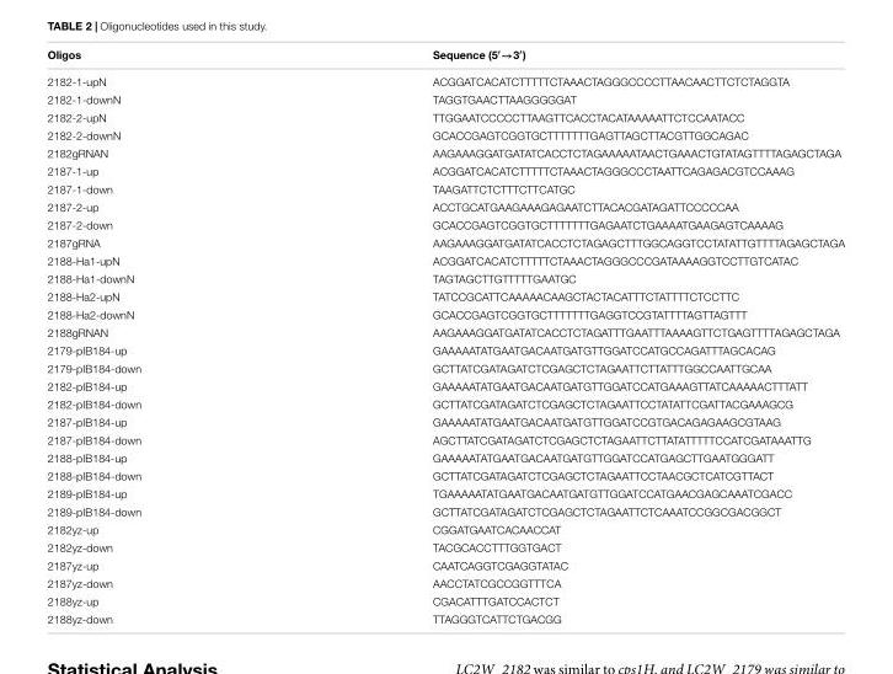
<table><thead><tr><td>Oligos</td><td>Sequence (5′→3′)</td></tr></thead><tbody><tr><td>2182-1-upN</td><td>ACGGATCACATCTTTTTCTAAACTAGGGCCCCTTAACAACTTCTCTAGGTA</td></tr><tr><td>2182-1-downN</td><td>TAGGTGAACTTAAGGGGGAT</td></tr><tr><td>2182-2-upN</td><td>TTGGAATCCCCCTTAAGTTCACCTACATAAAAATTCTCCAATACC</td></tr><tr><td>2182-2-downN</td><td>GCACCGAGTCGGTGCTTTTTTTGAGTTAGCTTACGTTGGCAGAC</td></tr><tr><td>2182gRNAN</td><td>AAGAAAGGATGATATCACCTCTAGAAAAATAACTGAAACTGTATAGTTTTAGAGCTAGA</td></tr><tr><td>2187-1-up</td><td>ACGGATCACATCTTTTTCTAAACTAGGGCCCTAATTCAGAGACGTCCAAAG</td></tr><tr><td>2187-1-down</td><td>TAAGATTCTCTTTCTTCATGC</td></tr><tr><td>2187-2-up</td><td>ACCTGCATGAAGAAAGAGAATCTTACACGATAGATTCCCCCAA</td></tr><tr><td>2187-2-down</td><td>GCACCGAGTCGGTGCTTTTTTTGAGAATCTGAAAATGAAGAGTCAAAAG</td></tr><tr><td>2187gRNA</td><td>AAGAAAGGATGATATCACCTCTAGAGCTTTGGCAGGTCCTATATTGTTTTAGAGCTAGA</td></tr><tr><td>2188-Ha1-upN</td><td>ACGGATCACATCTTTTTCTAAACTAGGGCCCGATAAAAGGTCCTTGTCATAC</td></tr><tr><td>2188-Ha1-downN</td><td>TAGTAGCTTGTTTTTGAATGC</td></tr><tr><td>2188-Ha2-upN</td><td>TATCCGCATTCAAAAACAAGCTACTACATTTCTATTTTCTCCTTC</td></tr><tr><td>2188-Ha2-downN</td><td>GCACCGAGTCGGTGCTTTTTTTGAGGTCCGTATTTTAGTTAGTTT</td></tr><tr><td>2188gRNAN</td><td>AAGAAAGGATGATATCACCTCTAGATTTGAATTTAAAAGTTCTGAGTTTTAGAGCTAGA</td></tr><tr><td>2179-pIB184-up</td><td>GAAAAATATGAATGACAATGATGTTGGATCCATGCCAGATTTAGCACAG</td></tr><tr><td>2179-pIB184-down</td><td>GCTTATCGATAGATCTCGAGCTCTAGAATTCTTATTTGGCCAATTGCAA</td></tr><tr><td>2182-pIB184-up</td><td>GAAAAATATGAATGACAATGATGTTGGATCCATGAAAGTTATCAAAAACTTTATT</td></tr><tr><td>2182-pIB184-down</td><td>GCTTATCGATAGATCTCGAGCTCTAGAATTCCTATATTCGATTACGAAAGCG</td></tr><tr><td>2187-pIB184-up</td><td>GAAAAATATGAATGACAATGATGTTGGATCCGTGACAGAGAAGCGTAAG</td></tr><tr><td>2187-pIB184-down</td><td>AGCTTATCGATAGATCTCGAGCTCTAGAATTCTTATATTTTTCCATCGATAAATTG</td></tr><tr><td>2188-pIB184-up</td><td>GAAAAATATGAATGACAATGATGTTGGATCCATGAGCTTGAATGGGATT</td></tr><tr><td>2188-pIB184-down</td><td>GCTTATCGATAGATCTCGAGCTCTAGAATTCCTAACGCTCATCGTTACT</td></tr><tr><td>2189-pIB184-up</td><td>TGAAAAATATGAATGACAATGATGTTGGATCCATGAACGAGCAAATCGACC</td></tr><tr><td>2189-pIB184-down</td><td>GCTTATCGATAGATCTCGAGCTCTAGAATTCTCAAATCCGGCGACGGCT</td></tr><tr><td>2182yz-up</td><td>CGGATGAATCACAACCAT</td></tr><tr><td>2182yz-down</td><td>TACGCACCTTTGGTGACT</td></tr><tr><td>2187yz-up</td><td>CAATCAGGTCGAGGTATAC</td></tr><tr><td>2187yz-down</td><td>AACCTATCGCCGGTTTCA</td></tr><tr><td>2188yz-up</td><td>CGACATTTGATCCACTCT</td></tr><tr><td>2188yz-down</td><td>TTAGGGTCATTCTGACGG</td></tr></tbody></table>